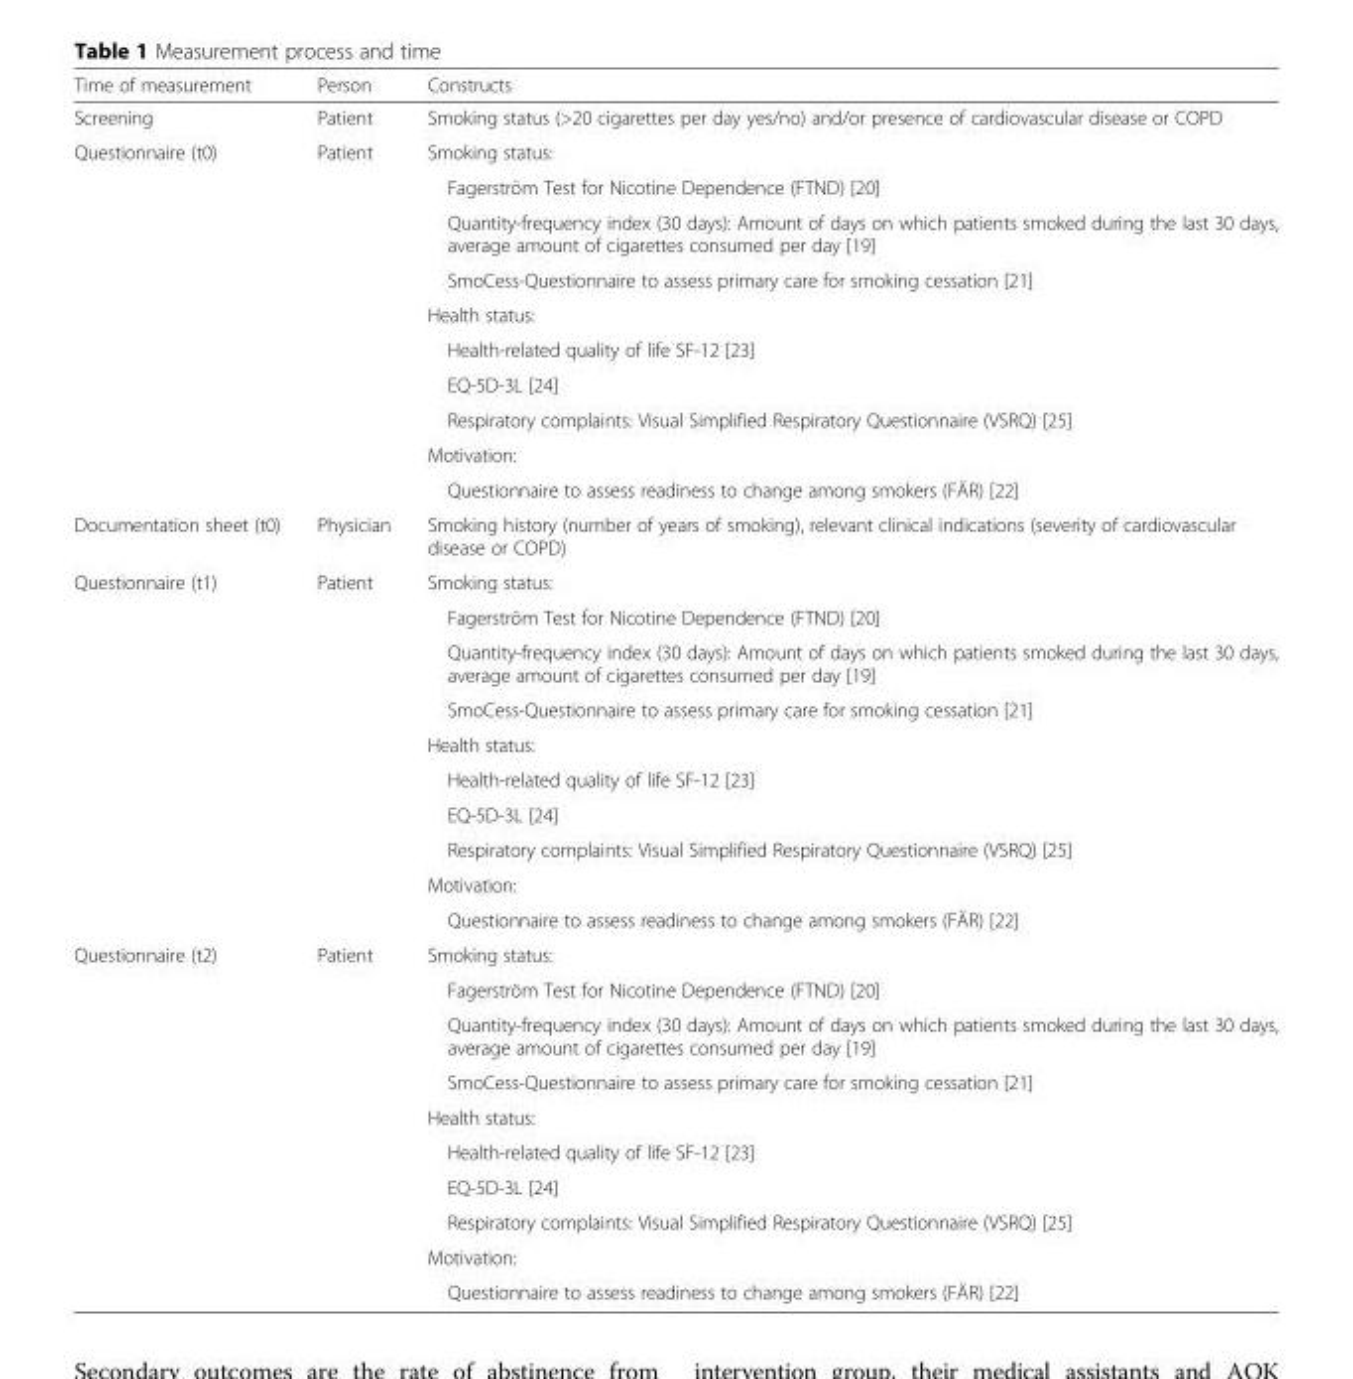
<table><thead><tr><td>Time of measurement</td><td>Person</td><td>Constructs</td></tr></thead><tbody><tr><td>Screening</td><td>Patient</td><td>Smoking status (&gt;20 cigarettes per day yes/no) and/or presence of cardiovascular disease or COPD</td></tr><tr><td rowspan="10">Questionnaire (t0)</td><td rowspan="10">Patient</td><td>Smoking status:</td></tr><tr><td>Fagerström Test for Nicotine Dependence (FTND) [20]</td></tr><tr><td>Quantity-frequency index (30 days): Amount of days on which patients smoked during the last 30 days, average amount of cigarettes consumed per day [19]</td></tr><tr><td>SmoCess-Questionnaire to assess primary care for smoking cessation [21]</td></tr><tr><td>Health status:</td></tr><tr><td>Health-related quality of life SF-12 [23]</td></tr><tr><td>EQ-5D-3L [24]</td></tr><tr><td>Respiratory complaints: Visual Simplified Respiratory Questionnaire (VSRQ) [25]</td></tr><tr><td>Motivation:</td></tr><tr><td>Questionnaire to assess readiness to change among smokers (FÄR) [22]</td></tr><tr><td>Documentation sheet (t0)</td><td>Physician</td><td>Smoking history (number of years of smoking), relevant clinical indications (severity of cardiovascular disease or COPD)</td></tr><tr><td rowspan="10">Questionnaire (t1)</td><td rowspan="10">Patient</td><td>Smoking status:</td></tr><tr><td>Fagerström Test for Nicotine Dependence (FTND) [20]</td></tr><tr><td>Quantity-frequency index (30 days): Amount of days on which patients smoked during the last 30 days, average amount of cigarettes consumed per day [19]</td></tr><tr><td>SmoCess-Questionnaire to assess primary care for smoking cessation [21]</td></tr><tr><td>Health status:</td></tr><tr><td>Health-related quality of life SF-12 [23]</td></tr><tr><td>EQ-5D-3L [24]</td></tr><tr><td>Respiratory complaints: Visual Simplified Respiratory Questionnaire (VSRQ) [25]</td></tr><tr><td>Motivation:</td></tr><tr><td>Questionnaire to assess readiness to change among smokers (FÄR) [22]</td></tr><tr><td rowspan="10">Questionnaire (t2)</td><td rowspan="10">Patient</td><td>Smoking status:</td></tr><tr><td>Fagerström Test for Nicotine Dependence (FTND) [20]</td></tr><tr><td>Quantity-frequency index (30 days): Amount of days on which patients smoked during the last 30 days, average amount of cigarettes consumed per day [19]</td></tr><tr><td>SmoCess-Questionnaire to assess primary care for smoking cessation [21]</td></tr><tr><td>Health status:</td></tr><tr><td>Health-related quality of life SF-12 [23]</td></tr><tr><td>EQ-5D-3L [24]</td></tr><tr><td>Respiratory complaints: Visual Simplified Respiratory Questionnaire (VSRQ) [25]</td></tr><tr><td>Motivation:</td></tr><tr><td>Questionnaire to assess readiness to change among smokers (FÄR) [22]</td></tr></tbody></table>